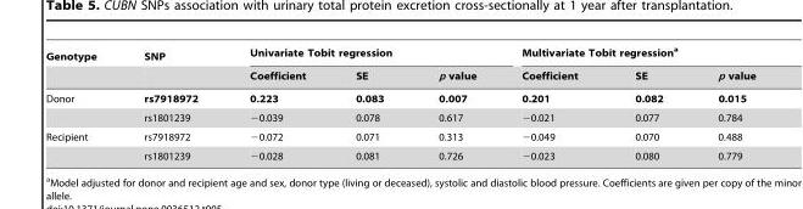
<table><thead><tr><td rowspan="2">Genotype</td><td rowspan="2">SNP</td><td colspan="3">Univariate Tobit regression</td><td colspan="3">Multivariate Tobit regression<sup>a</sup></td></tr><tr><td>Coefficient</td><td>SE</td><td>p value</td><td>Coefficient</td><td>SE</td><td>p value</td></tr></thead><tbody><tr><td rowspan="2">Donor</td><td>rs7918972</td><td>0.223</td><td>0.083</td><td>0.007</td><td>0.201</td><td>0.082</td><td>0.015</td></tr><tr><td>rs1801239</td><td>−0.039</td><td>0.078</td><td>0.617</td><td>−0.021</td><td>0.077</td><td>0.784</td></tr><tr><td rowspan="2">Recipient</td><td>rs7918972</td><td>−0.072</td><td>0.071</td><td>0.313</td><td>−0.049</td><td>0.070</td><td>0.488</td></tr><tr><td>rs1801239</td><td>−0.028</td><td>0.081</td><td>0.726</td><td>−0.023</td><td>0.080</td><td>0.779</td></tr></tbody></table>